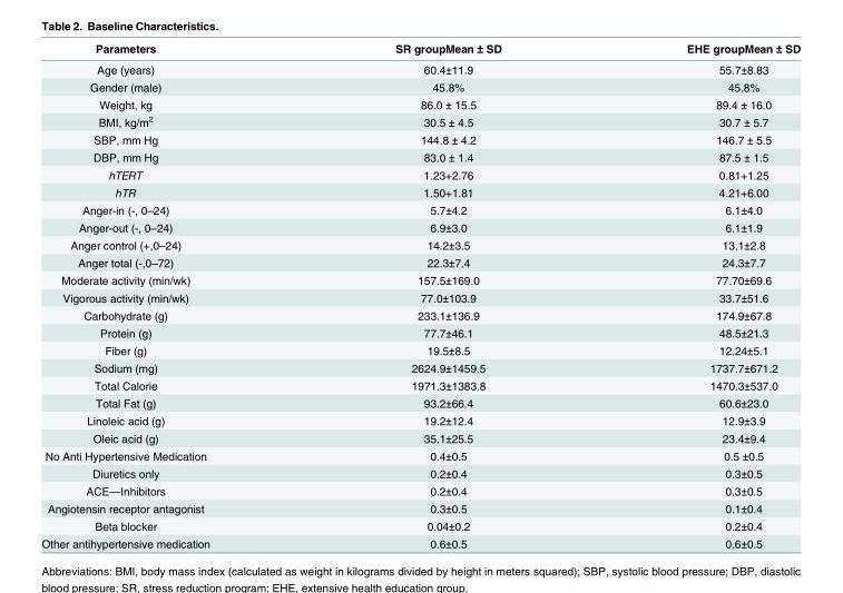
<table><thead><tr><td>Parameters</td><td>SR groupMean ± SD</td><td>EHE groupMean ± SD</td></tr></thead><tbody><tr><td>Age (years)</td><td>60.4±11.9</td><td>55.7±8.83</td></tr><tr><td>Gender (male)</td><td>45.8%</td><td>45.8%</td></tr><tr><td>Weight, kg</td><td>86.0 ± 15.5</td><td>89.4 ± 16.0</td></tr><tr><td>BMI, kg/m<sup>2</sup></td><td>30.5 ± 4.5</td><td>30.7 ± 5.7</td></tr><tr><td>SBP, mm Hg</td><td>144.8 ± 4.2</td><td>146.7 ± 5.5</td></tr><tr><td>DBP, mm Hg</td><td>83.0 ± 1.4</td><td>87.5 ± 1.5</td></tr><tr><td>hTERT</td><td>1.23+2.76</td><td>0.81+1.25</td></tr><tr><td>hTR</td><td>1.50+1.81</td><td>4.21+6.00</td></tr><tr><td>Anger-in (-, 0–24)</td><td>5.7±4.2</td><td>6.1±4.0</td></tr><tr><td>Anger-out (-, 0–24)</td><td>6.9±3.0</td><td>6.1±1.9</td></tr><tr><td>Anger control (+,0–24)</td><td>14.2±3.5</td><td>13.1±2.8</td></tr><tr><td>Anger total (-,0–72)</td><td>22.3±7.4</td><td>24.3±7.7</td></tr><tr><td>Moderate activity (min/wk)</td><td>157.5±169.0</td><td>77.70±69.6</td></tr><tr><td>Vigorous activity (min/wk)</td><td>77.0±103.9</td><td>33.7±51.6</td></tr><tr><td>Carbohydrate (g)</td><td>233.1±136.9</td><td>174.9±67.8</td></tr><tr><td>Protein (g)</td><td>77.7±46.1</td><td>48.5±21.3</td></tr><tr><td>Fiber (g)</td><td>19.5±8.5</td><td>12.24±5.1</td></tr><tr><td>Sodium (mg)</td><td>2624.9±1459.5</td><td>1737.7±671.2</td></tr><tr><td>Total Calorie</td><td>1971.3±1383.8</td><td>1470.3±537.0</td></tr><tr><td>Total Fat (g)</td><td>93.2±66.4</td><td>60.6±23.0</td></tr><tr><td>Linoleic acid (g)</td><td>19.2±12.4</td><td>12.9±3.9</td></tr><tr><td>Oleic acid (g)</td><td>35.1±25.5</td><td>23.4±9.4</td></tr><tr><td>No Anti Hypertensive Medication</td><td>0.4±0.5</td><td>0.5 ±0.5</td></tr><tr><td>Diuretics only</td><td>0.2±0.4</td><td>0.3±0.5</td></tr><tr><td>ACE—Inhibitors</td><td>0.2±0.4</td><td>0.3±0.5</td></tr><tr><td>Angiotensin receptor antagonist</td><td>0.3±0.5</td><td>0.1±0.4</td></tr><tr><td>Beta blocker</td><td>0.04±0.2</td><td>0.2±0.4</td></tr><tr><td>Other antihypertensive medication</td><td>0.6±0.5</td><td>0.6±0.5</td></tr></tbody></table>